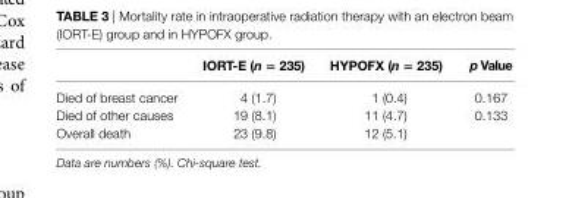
<table><thead><tr><td></td><td>iOrT-e (n = 235)</td><td>hYPOFX (n = 235)</td><td>p Value</td></tr></thead><tbody><tr><td>Died of breast cancer</td><td>4 (1.7)</td><td>1 (0.4)</td><td>0.167</td></tr><tr><td>Died of other causes</td><td>19 (8.1)</td><td>11 (4.7)</td><td>0.133</td></tr><tr><td>Overall death</td><td>23 (9.8)</td><td>12 (5.1)</td><td></td></tr></tbody></table>